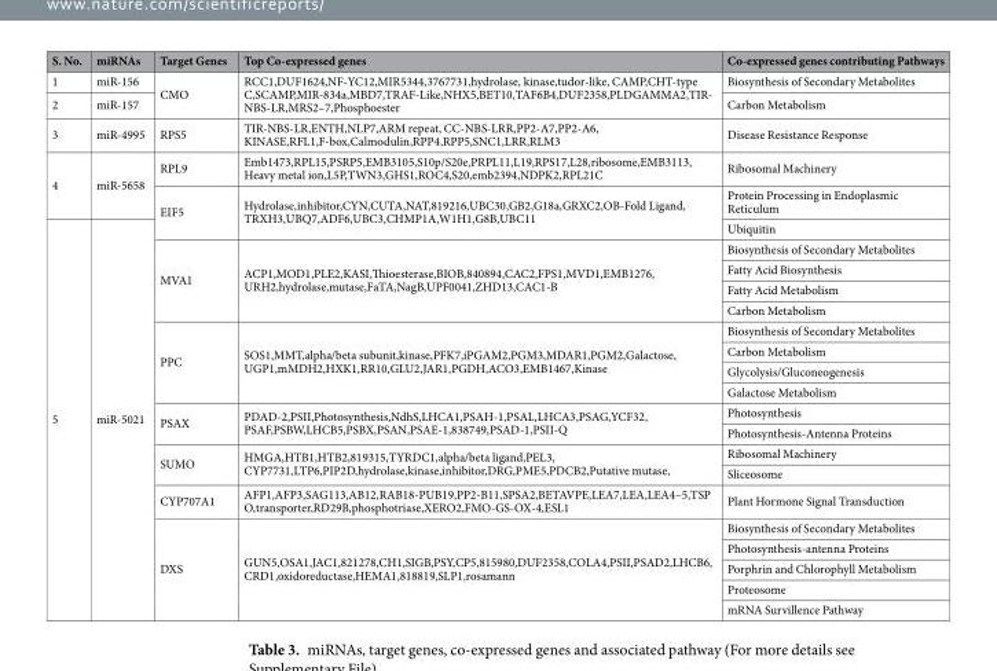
<table><thead><tr><td>S. No.</td><td>miRNAs</td><td>Target Genes</td><td>Top Co-expressed genes</td><td>Co-expressed genes contributing Pathways</td></tr></thead><tbody><tr><td>1</td><td>miR-156</td><td rowspan="2">CMO</td><td rowspan="2">RCC1,DUF1624,NF-YC12,MIR5344,3767731,hydrolase, kinase,tudor-like, CAMP,CHT-type C,SCAMP,MIR-834a,MBD7,TRAF-Like,NHX5,BET10,TAF6B4,DUF2358,PLDGAMMA2,TIR- NBS-LR,MRS2–7,Phosphoester</td><td>Biosynthesis of Secondary Metabolites</td></tr><tr><td>2</td><td>miR-157</td><td>Carbon Metabolism</td></tr><tr><td>3</td><td>miR-4995</td><td>RPS5</td><td>TIR-NBS-LR,ENTH,NLP7,ARM repeat, CC-NBS-LRR,PP2-A7,PP2-A6, KINASE,RFL1,F-box,Calmodulin,RPP4,RPP5,SNC1,LRR,RLM3</td><td>Disease Resistance Response</td></tr><tr><td rowspan="2">4</td><td rowspan="2">miR-5658</td><td>RPL9</td><td>Emb1473,RPL15,PSRP5,EMB3105,S10p/S20e,PRPL11,L19,RPS17,L28,ribosome,EMB3113, Heavy metal ion,L5P,TWN3,GHS1,ROC4,S20,emb2394,NDPK2,RPL21C</td><td>Ribosomal Machinery</td></tr><tr><td rowspan="2">EIF5</td><td rowspan="2">Hydrolase,inhibitor,CYN,CUTA,NAT,819216,UBC30,GB2,G18a,GRXC2,OB-Fold Ligand, TRXH3,UBQ7,ADF6,UBC3,CHMP1A,W1H1,G8B,UBC11</td><td>Protein Processing in Endoplasmic Reticulum</td></tr><tr><td rowspan="19">5</td><td rowspan="19">miR-5021</td><td>Ubiquitin</td></tr><tr><td rowspan="4">MVA1</td><td rowspan="4">ACP1,MOD1,PLE2,KASI,Thioesterase,BIOB,840894,CAC2,FPS1,MVD1,EMB1276, URH2,hydrolase,mutase,FaTA,NagB,UPF0041,ZHD13,CAC1-B</td><td>Biosynthesis of Secondary Metabolites</td></tr><tr><td>Fatty Acid Biosynthesis</td></tr><tr><td>Fatty Acid Metabolism</td></tr><tr><td>Carbon Metabolism</td></tr><tr><td rowspan="4">PPC</td><td rowspan="4">SOS1,MMT,alpha/beta subunit,kinase,PFK7,iPGAM2,PGM3,MDAR1,PGM2,Galactose, UGP1,mMDH2,HXK1,RR10,GLU2,JAR1,PGDH,ACO3,EMB1467,Kinase</td><td>Biosynthesis of Secondary Metabolites</td></tr><tr><td>Carbon Metabolism</td></tr><tr><td>Glycolysis/Gluconeogenesis</td></tr><tr><td>Galactose Metabolism</td></tr><tr><td rowspan="2">PSAX</td><td rowspan="2">PDAD-2,PSII,Photosynthesis,NdhS,LHCA1,PSAH-1,PSAL,LHCA3,PSAG,YCF32, PSAF,PSBW,LHCB5,PSBX,PSAN,PSAE-1,838749,PSAD-1,PSII-Q</td><td>Photosynthesis</td></tr><tr><td>Photosynthesis-Antenna Proteins</td></tr><tr><td rowspan="2">SUMO</td><td rowspan="2">HMGA,HTB1,HTB2,819315,TYRDC1,alpha/beta ligand,PEL3, CYP7731,LTP6,PIP2D,hydrolase,kinase,inhibitor,DRG,PME5,PDCB2,Putative mutase,</td><td>Ribosomal Machinery</td></tr><tr><td>Sliceosome</td></tr><tr><td>CYP707A1</td><td>AFP1,AFP3,SAG113,AB12,RAB18-PUB19,PP2-B11,SPSA2,BETAVPE,LEA7,LEA,LEA4–5,TSP O,transporter,RD29B,phosphotriase,XERO2,FMO-GS-OX-4,ESL1</td><td>Plant Hormone Signal Transduction</td></tr><tr><td rowspan="5">DXS</td><td rowspan="5">GUN5,OSA1,JAC1,821278,CH1,SIGB,PSY,CP5,815980,DUF2358,COLA4,PSII,PSAD2,LHCB6, CRD1,oxidoreductase,HEMA1,818819,SLP1,rosamann</td><td>Biosynthesis of Secondary Metabolites</td></tr><tr><td>Photosynthesis-antenna Proteins</td></tr><tr><td>Porphrin and Chlorophyll Metabolism</td></tr><tr><td>Proteosome</td></tr><tr><td>mRNA Survillence Pathway</td></tr></tbody></table>